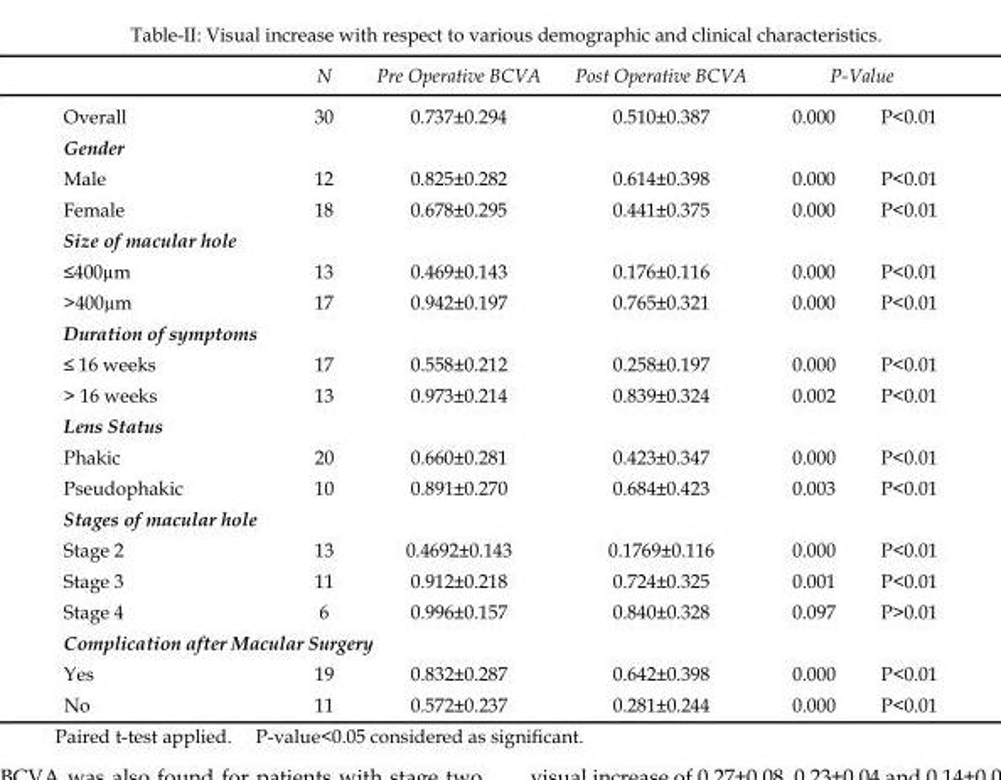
<table><thead><tr><td rowspan="2">Overall</td><td rowspan="2">N 30</td><td rowspan="2">Pre Operative BCVA 0.737±0.294</td><td rowspan="2">Post Operative BCVA 0.510±0.387</td><td colspan="2">P-Value</td></tr><tr><td>0.000</td><td>P&lt;0.01</td></tr></thead><tbody><tr><td colspan="6">Gender</td></tr><tr><td>Male</td><td>12</td><td>0.825±0.282</td><td>0.614±0.398</td><td>0.000</td><td>P&lt;0.01</td></tr><tr><td>Female</td><td>18</td><td>0.678±0.295</td><td>0.441±0.375</td><td>0.000</td><td>P&lt;0.01</td></tr><tr><td colspan="6">Size of macular hole</td></tr><tr><td>≤400µm</td><td>13</td><td>0.469±0.143</td><td>0.176±0.116</td><td>0.000</td><td>P&lt;0.01</td></tr><tr><td>&gt;400µm</td><td>17</td><td>0.942±0.197</td><td>0.765±0.321</td><td>0.000</td><td>P&lt;0.01</td></tr><tr><td colspan="6">Duration of symptoms</td></tr><tr><td>≤ 16 weeks</td><td>17</td><td>0.558±0.212</td><td>0.258±0.197</td><td>0.000</td><td>P&lt;0.01</td></tr><tr><td>&gt; 16 weeks</td><td>13</td><td>0.973±0.214</td><td>0.839±0.324</td><td>0.002</td><td>P&lt;0.01</td></tr><tr><td colspan="6">Lens Status</td></tr><tr><td>Phakic</td><td>20</td><td>0.660±0.281</td><td>0.423±0.347</td><td>0.000</td><td>P&lt;0.01</td></tr><tr><td>Pseudophakic</td><td>10</td><td>0.891±0.270</td><td>0.684±0.423</td><td>0.003</td><td>P&lt;0.01</td></tr><tr><td colspan="6">Stages of macular hole</td></tr><tr><td>Stage 2</td><td>13</td><td>0.4692±0.143</td><td>0.1769±0.116</td><td>0.000</td><td>P&lt;0.01</td></tr><tr><td>Stage 3</td><td>11</td><td>0.912±0.218</td><td>0.724±0.325</td><td>0.001</td><td>P&lt;0.01</td></tr><tr><td>Stage 4</td><td>6</td><td>0.996±0.157</td><td>0.840±0.328</td><td>0.097</td><td>P&gt;0.01</td></tr><tr><td colspan="6">Complication after Macular Surgery</td></tr><tr><td>Yes</td><td>19</td><td>0.832±0.287</td><td>0.642±0.398</td><td>0.000</td><td>P&lt;0.01</td></tr><tr><td>No</td><td>11</td><td>0.572±0.237</td><td>0.281±0.244</td><td>0.000</td><td>P&lt;0.01</td></tr></tbody></table>